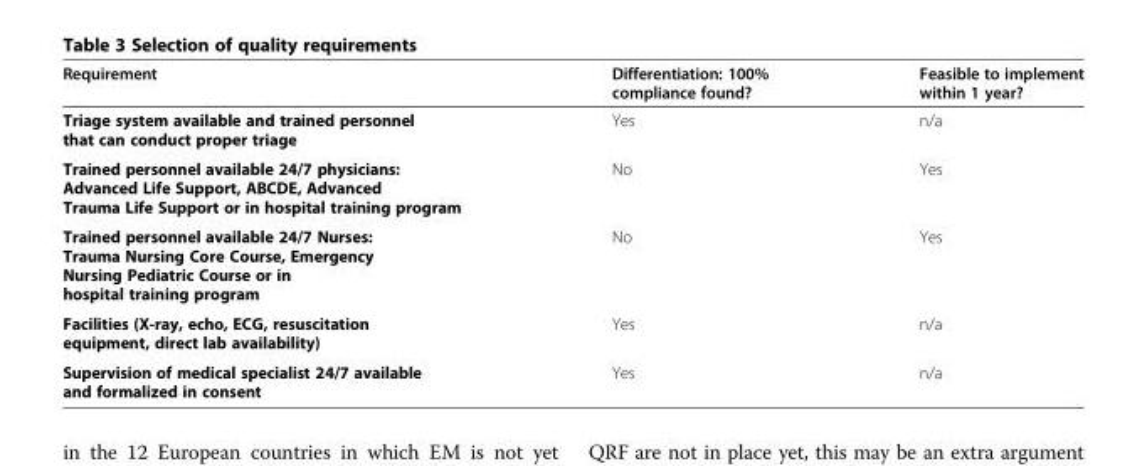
<table><thead><tr><td>Requirement</td><td>Differentiation: 100% compliance found?</td><td>Feasible to implement within 1 year?</td></tr></thead><tbody><tr><td>Triage system available and trained personnel that can conduct proper triage</td><td>Yes</td><td>n/a</td></tr><tr><td>Trained personnel available 24/7 physicians: Advanced Life Support, ABCDE, Advanced Trauma Life Support or in hospital training program</td><td>No</td><td>Yes</td></tr><tr><td>Trained personnel available 24/7 Nurses: Trauma Nursing Core Course, Emergency Nursing Pediatric Course or in hospital training program</td><td>No</td><td>Yes</td></tr><tr><td>Facilities (X-ray, echo, ECG, resuscitation equipment, direct lab availability)</td><td>Yes</td><td>n/a</td></tr><tr><td>Supervision of medical specialist 24/7 available and formalized in consent</td><td>Yes</td><td>n/a</td></tr></tbody></table>